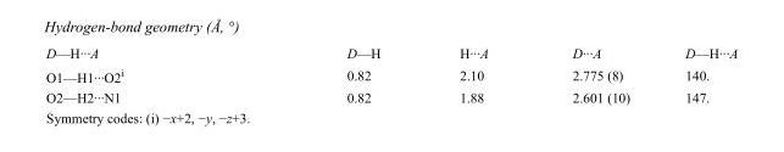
<table><tbody><tr><td>D—H···A</td><td>D—H</td><td>H···A</td><td>D···A</td><td>D—H···A</td></tr><tr><td>O1—H1···O2<sup>i</sup></td><td>0.82</td><td>2.10</td><td>2.775 (8)</td><td>140.</td></tr><tr><td>O2—H2···N1</td><td>0.82</td><td>1.88</td><td>2.601 (10)</td><td>147.</td></tr></tbody></table>